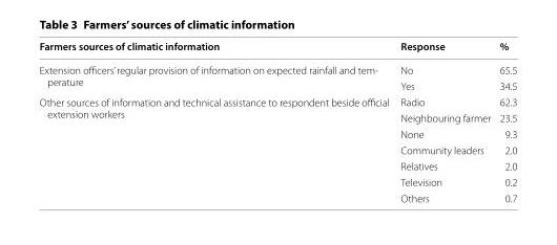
<table><thead><tr><td>Farmers sources of climatic information</td><td>Response</td><td>%</td></tr></thead><tbody><tr><td rowspan="2">Extension officers’ regular provision of information on expected rainfall and tem- perature</td><td>No</td><td>65.5</td></tr><tr><td>Yes</td><td>34.5</td></tr><tr><td rowspan="7">Other sources of information and technical assistance to respondent beside official extension workers</td><td>Radio</td><td>62.3</td></tr><tr><td>Neighbouring farmer</td><td>23.5</td></tr><tr><td>None</td><td>9.3</td></tr><tr><td>Community leaders</td><td>2.0</td></tr><tr><td>Relatives</td><td>2.0</td></tr><tr><td>Television</td><td>0.2</td></tr><tr><td>Others</td><td>0.7</td></tr></tbody></table>